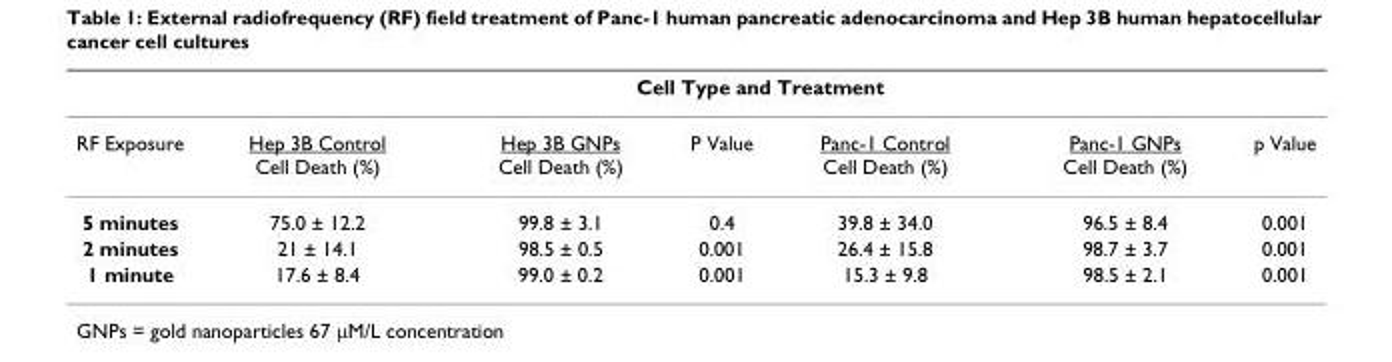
<table><thead><tr><td rowspan="2">RF Exposure</td><td colspan="6">Cell Type and Treatment</td></tr><tr><td>Hep 3B Control Cell Death (%)</td><td>Hep 3B GNPs Cell Death (%)</td><td>P Value</td><td>Panc-1 Control Cell Death (%)</td><td>Panc-1 GNPs Cell Death (%)</td><td>p Value</td></tr></thead><tbody><tr><td>5 minutes</td><td>75.0 ± 12.2</td><td>99.8 ± 3.1</td><td>0.4</td><td>39.8 ± 34.0</td><td>96.5 ± 8.4</td><td>0.001</td></tr><tr><td>2 minutes</td><td>21 ± 14.1</td><td>98.5 ± 0.5</td><td>0.001</td><td>26.4 ± 15.8</td><td>98.7 ± 3.7</td><td>0.001</td></tr><tr><td>1 minute</td><td>17.6 ± 8.4</td><td>99.0 ± 0.2</td><td>0.001</td><td>15.3 ± 9.8</td><td>98.5 ± 2.1</td><td>0.001</td></tr></tbody></table>